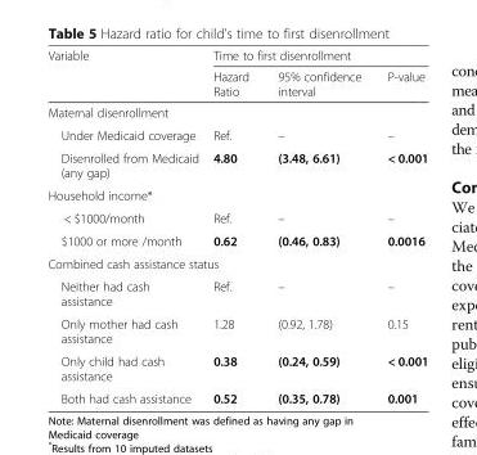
<table><thead><tr><td rowspan="2">Variable</td><td colspan="3">Time to first disenrollment</td></tr><tr><td>Hazard Ratio</td><td>95% confidence interval</td><td>P-value</td></tr></thead><tbody><tr><td colspan="4">Maternal disenrollment</td></tr><tr><td>Under Medicaid coverage</td><td>Ref.</td><td>–</td><td>–</td></tr><tr><td>Disenrolled from Medicaid (any gap)</td><td>4.80</td><td>(3.48, 6.61)</td><td>&lt; 0.001</td></tr><tr><td colspan="4">Household income*</td></tr><tr><td>&lt; $1000/month</td><td>Ref.</td><td>–</td><td>–</td></tr><tr><td>$1000 or more /month</td><td>0.62</td><td>(0.46, 0.83)</td><td>0.0016</td></tr><tr><td colspan="4">Combined cash assistance status</td></tr><tr><td>Neither had cash assistance</td><td>Ref.</td><td>–</td><td>–</td></tr><tr><td>Only mother had cash assistance</td><td>1.28</td><td>(0.92, 1.78)</td><td>0.15</td></tr><tr><td>Only child had cash assistance</td><td>0.38</td><td>(0.24, 0.59)</td><td>&lt; 0.001</td></tr><tr><td>Both had cash assistance</td><td>0.52</td><td>(0.35, 0.78)</td><td>0.001</td></tr></tbody></table>